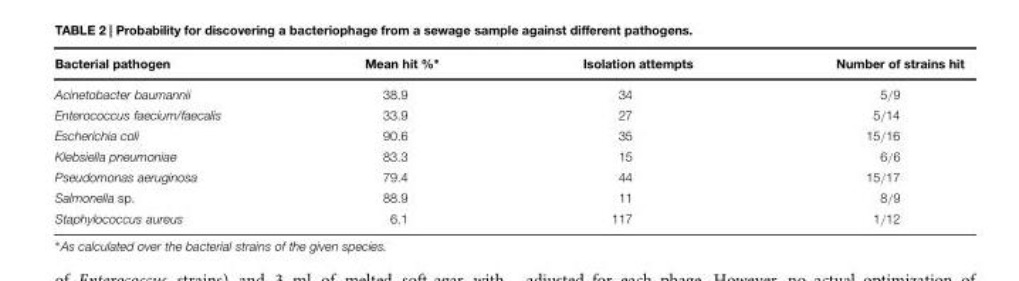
<table><thead><tr><td>Bacterial pathogen</td><td>Mean hit %∗</td><td>Isolation attempts</td><td>Number of strains hit</td></tr></thead><tbody><tr><td>Acinetobacter baumannii</td><td>38.9</td><td>34</td><td>5/9</td></tr><tr><td>Enterococcus faecium/faecalis</td><td>33.9</td><td>27</td><td>5/14</td></tr><tr><td>Escherichia coli</td><td>90.6</td><td>35</td><td>15/16</td></tr><tr><td>Klebsiella pneumoniae</td><td>83.3</td><td>15</td><td>6/6</td></tr><tr><td>Pseudomonas aeruginosa</td><td>79.4</td><td>44</td><td>15/17</td></tr><tr><td>Salmonella sp.</td><td>88.9</td><td>11</td><td>8/9</td></tr><tr><td>Staphylococcus aureus</td><td>6.1</td><td>117</td><td>1/12</td></tr></tbody></table>